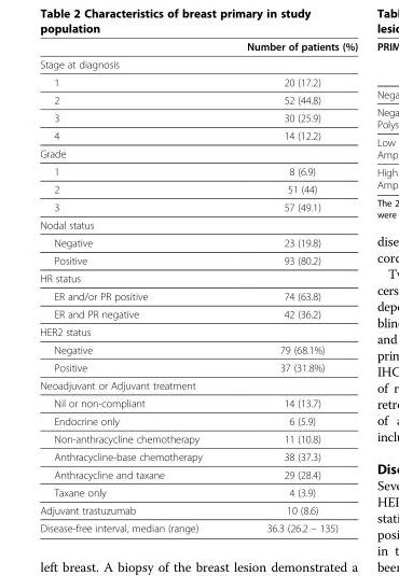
<table><thead><tr><td></td><td>Number of patients (%)</td></tr></thead><tbody><tr><td colspan="2">Stage at diagnosis</td></tr><tr><td>1</td><td>20 (17.2)</td></tr><tr><td>2</td><td>52 (44.8)</td></tr><tr><td>3</td><td>30 (25.9)</td></tr><tr><td>4</td><td>14 (12.2)</td></tr><tr><td colspan="2">Grade</td></tr><tr><td>1</td><td>8 (6.9)</td></tr><tr><td>2</td><td>51 (44)</td></tr><tr><td>3</td><td>57 (49.1)</td></tr><tr><td colspan="2">Nodal status</td></tr><tr><td>Negative</td><td>23 (19.8)</td></tr><tr><td>Positive</td><td>93 (80.2)</td></tr><tr><td colspan="2">HR status</td></tr><tr><td>ER and/or PR positive</td><td>74 (63.8)</td></tr><tr><td>ER and PR negative</td><td>42 (36.2)</td></tr><tr><td colspan="2">HER2 status</td></tr><tr><td>Negative</td><td>79 (68.1%)</td></tr><tr><td>Positive</td><td>37 (31.8%)</td></tr><tr><td colspan="2">Neoadjuvant or Adjuvant treatment</td></tr><tr><td>Nil or non-compliant</td><td>14 (13.7)</td></tr><tr><td>Endocrine only</td><td>6 (5.9)</td></tr><tr><td>Non-anthracycline chemotherapy</td><td>11 (10.8)</td></tr><tr><td>Anthracycline-base chemotherapy</td><td>38 (37.3)</td></tr><tr><td>Anthracycline and taxane</td><td>29 (28.4)</td></tr><tr><td>Taxane only</td><td>4 (3.9)</td></tr><tr><td>Adjuvant trastuzumab</td><td>10 (8.6)</td></tr><tr><td>Disease-free interval, median (range)</td><td>36.3 (26.2 – 135)</td></tr></tbody></table>